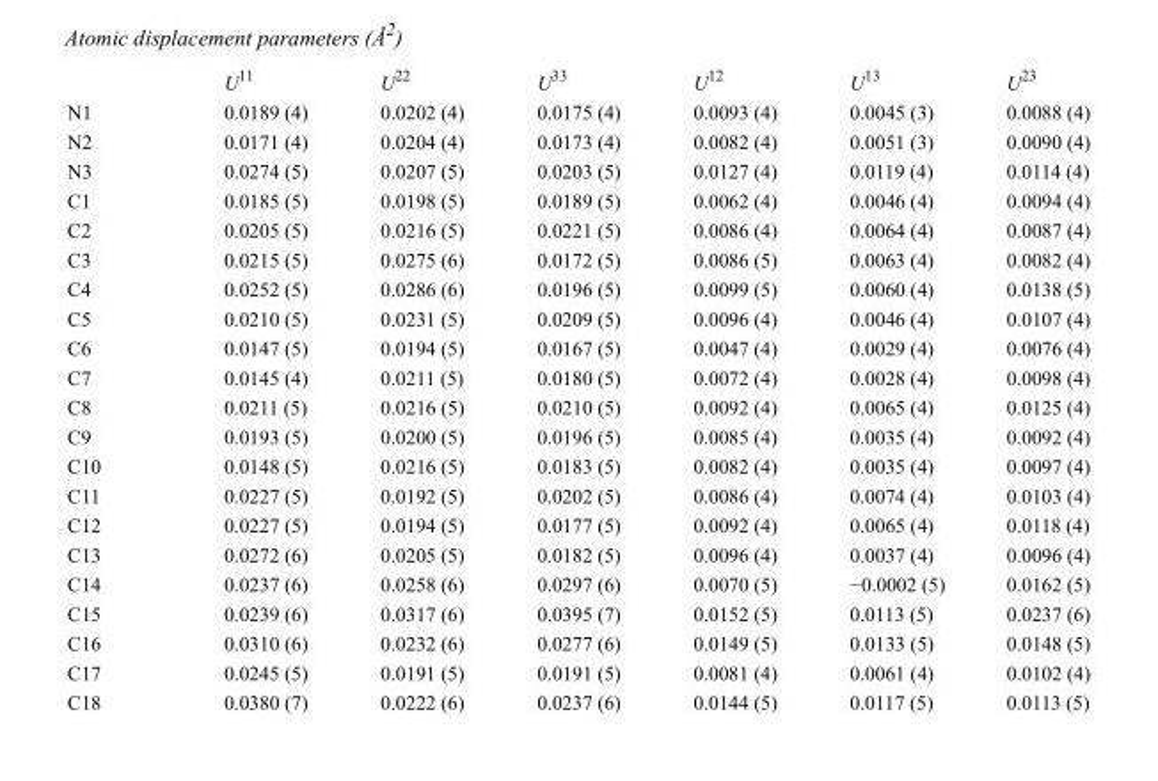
<table><thead><tr><td></td><td>U<sup>11</sup></td><td>U<sup>22</sup></td><td>U<sup>33</sup></td><td>U<sup>12</sup></td><td>U<sup>13</sup></td><td>U<sup>23</sup></td></tr></thead><tbody><tr><td>N1</td><td>0.0189 (4)</td><td>0.0202 (4)</td><td>0.0175 (4)</td><td>0.0093 (4)</td><td>0.0045 (3)</td><td>0.0088 (4)</td></tr><tr><td>N2</td><td>0.0171 (4)</td><td>0.0204 (4)</td><td>0.0173 (4)</td><td>0.0082 (4)</td><td>0.0051 (3)</td><td>0.0090 (4)</td></tr><tr><td>N3</td><td>0.0274 (5)</td><td>0.0207 (5)</td><td>0.0203 (5)</td><td>0.0127 (4)</td><td>0.0119 (4)</td><td>0.0114 (4)</td></tr><tr><td>C1</td><td>0.0185 (5)</td><td>0.0198 (5)</td><td>0.0189 (5)</td><td>0.0062 (4)</td><td>0.0046 (4)</td><td>0.0094 (4)</td></tr><tr><td>C2</td><td>0.0205 (5)</td><td>0.0216 (5)</td><td>0.0221 (5)</td><td>0.0086 (4)</td><td>0.0064 (4)</td><td>0.0087 (4)</td></tr><tr><td>C3</td><td>0.0215 (5)</td><td>0.0275 (6)</td><td>0.0172 (5)</td><td>0.0086 (5)</td><td>0.0063 (4)</td><td>0.0082 (4)</td></tr><tr><td>C4</td><td>0.0252 (5)</td><td>0.0286 (6)</td><td>0.0196 (5)</td><td>0.0099 (5)</td><td>0.0060 (4)</td><td>0.0138 (5)</td></tr><tr><td>C5</td><td>0.0210 (5)</td><td>0.0231 (5)</td><td>0.0209 (5)</td><td>0.0096 (4)</td><td>0.0046 (4)</td><td>0.0107 (4)</td></tr><tr><td>C6</td><td>0.0147 (5)</td><td>0.0194 (5)</td><td>0.0167 (5)</td><td>0.0047 (4)</td><td>0.0029 (4)</td><td>0.0076 (4)</td></tr><tr><td>C7</td><td>0.0145 (4)</td><td>0.0211 (5)</td><td>0.0180 (5)</td><td>0.0072 (4)</td><td>0.0028 (4)</td><td>0.0098 (4)</td></tr><tr><td>C8</td><td>0.0211 (5)</td><td>0.0216 (5)</td><td>0.0210 (5)</td><td>0.0092 (4)</td><td>0.0065 (4)</td><td>0.0125 (4)</td></tr><tr><td>C9</td><td>0.0193 (5)</td><td>0.0200 (5)</td><td>0.0196 (5)</td><td>0.0085 (4)</td><td>0.0035 (4)</td><td>0.0092 (4)</td></tr><tr><td>C10</td><td>0.0148 (5)</td><td>0.0216 (5)</td><td>0.0183 (5)</td><td>0.0082 (4)</td><td>0.0035 (4)</td><td>0.0097 (4)</td></tr><tr><td>C11</td><td>0.0227 (5)</td><td>0.0192 (5)</td><td>0.0202 (5)</td><td>0.0086 (4)</td><td>0.0074 (4)</td><td>0.0103 (4)</td></tr><tr><td>C12</td><td>0.0227 (5)</td><td>0.0194 (5)</td><td>0.0177 (5)</td><td>0.0092 (4)</td><td>0.0065 (4)</td><td>0.0118 (4)</td></tr><tr><td>C13</td><td>0.0272 (6)</td><td>0.0205 (5)</td><td>0.0182 (5)</td><td>0.0096 (4)</td><td>0.0037 (4)</td><td>0.0096 (4)</td></tr><tr><td>C14</td><td>0.0237 (6)</td><td>0.0258 (6)</td><td>0.0297 (6)</td><td>0.0070 (5)</td><td>−0.0002 (5)</td><td>0.0162 (5)</td></tr><tr><td>C15</td><td>0.0239 (6)</td><td>0.0317 (6)</td><td>0.0395 (7)</td><td>0.0152 (5)</td><td>0.0113 (5)</td><td>0.0237 (6)</td></tr><tr><td>C16</td><td>0.0310 (6)</td><td>0.0232 (6)</td><td>0.0277 (6)</td><td>0.0149 (5)</td><td>0.0133 (5)</td><td>0.0148 (5)</td></tr><tr><td>C17</td><td>0.0245 (5)</td><td>0.0191 (5)</td><td>0.0191 (5)</td><td>0.0081 (4)</td><td>0.0061 (4)</td><td>0.0102 (4)</td></tr><tr><td>C18</td><td>0.0380 (7)</td><td>0.0222 (6)</td><td>0.0237 (6)</td><td>0.0144 (5)</td><td>0.0117 (5)</td><td>0.0113 (5)</td></tr></tbody></table>